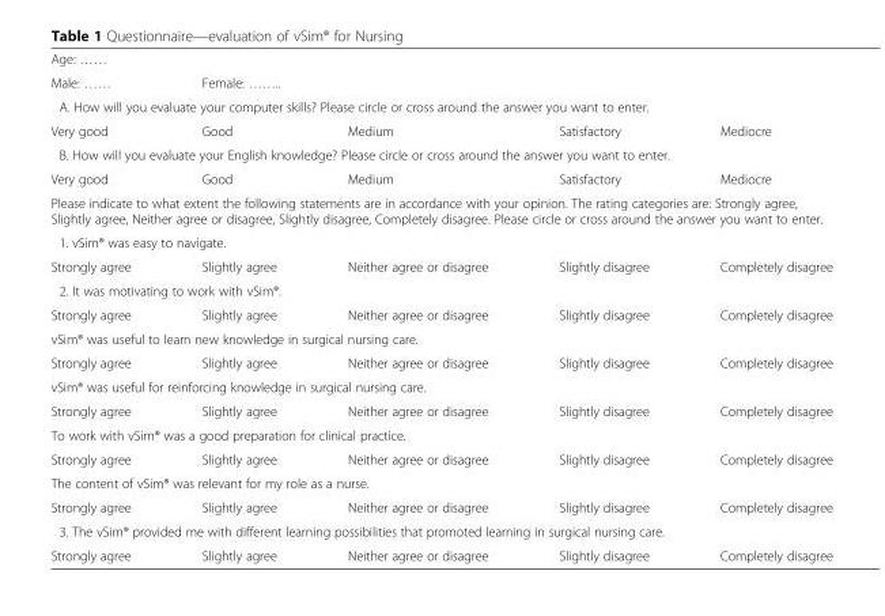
<table><tbody><tr><td colspan="5">Age: ……</td></tr><tr><td>Male: ……</td><td colspan="4">Female: ……..</td></tr><tr><td colspan="5">A. How will you evaluate your computer skills? Please circle or cross around the answer you want to enter.</td></tr><tr><td>Very good</td><td>Good</td><td>Medium</td><td>Satisfactory</td><td>Mediocre</td></tr><tr><td colspan="5">B. How will you evaluate your English knowledge? Please circle or cross around the answer you want to enter.</td></tr><tr><td>Very good</td><td>Good</td><td>Medium</td><td>Satisfactory</td><td>Mediocre</td></tr><tr><td colspan="5">Please indicate to what extent the following statements are in accordance with your opinion. The rating categories are: Strongly agree, Slightly agree, Neither agree or disagree, Slightly disagree, Completely disagree. Please circle or cross around the answer you want to enter.</td></tr><tr><td colspan="5">1. vSim® was easy to navigate.</td></tr><tr><td>Strongly agree</td><td>Slightly agree</td><td>Neither agree or disagree</td><td>Slightly disagree</td><td>Completely disagree</td></tr><tr><td colspan="5">2. It was motivating to work with vSim®.</td></tr><tr><td>Strongly agree</td><td>Slightly agree</td><td>Neither agree or disagree</td><td>Slightly disagree</td><td>Completely disagree</td></tr><tr><td colspan="5">vSim® was useful to learn new knowledge in surgical nursing care.</td></tr><tr><td>Strongly agree</td><td>Slightly agree</td><td>Neither agree or disagree</td><td>Slightly disagree</td><td>Completely disagree</td></tr><tr><td colspan="5">vSim® was useful for reinforcing knowledge in surgical nursing care.</td></tr><tr><td>Strongly agree</td><td>Slightly agree</td><td>Neither agree or disagree</td><td>Slightly disagree</td><td>Completely disagree</td></tr><tr><td colspan="5">To work with vSim® was a good preparation for clinical practice.</td></tr><tr><td>Strongly agree</td><td>Slightly agree</td><td>Neither agree or disagree</td><td>Slightly disagree</td><td>Completely disagree</td></tr><tr><td colspan="5">The content of vSim® was relevant for my role as a nurse.</td></tr><tr><td>Strongly agree</td><td>Slightly agree</td><td>Neither agree or disagree</td><td>Slightly disagree</td><td>Completely disagree</td></tr><tr><td colspan="5">3. The vSim® provided me with different learning possibilities that promoted learning in surgical nursing care.</td></tr><tr><td>Strongly agree</td><td>Slightly agree</td><td>Neither agree or disagree</td><td>Slightly disagree</td><td>Completely disagree</td></tr></tbody></table>